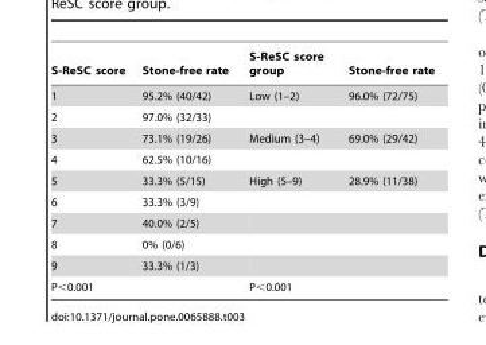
<table><thead><tr><td>S-ReSC score</td><td>Stone-free rate</td><td>S-ReSC score group</td><td>Stone-free rate</td></tr></thead><tbody><tr><td>1</td><td>95.2% (40/42)</td><td>Low (1–2)</td><td>96.0% (72/75)</td></tr><tr><td>2</td><td>97.0% (32/33)</td><td></td><td></td></tr><tr><td>3</td><td>73.1% (19/26)</td><td>Medium (3–4)</td><td>69.0% (29/42)</td></tr><tr><td>4</td><td>62.5% (10/16)</td><td></td><td></td></tr><tr><td>5</td><td>33.3% (5/15)</td><td>High (5–9)</td><td>28.9% (11/38)</td></tr><tr><td>6</td><td>33.3% (3/9)</td><td></td><td></td></tr><tr><td>7</td><td>40.0% (2/5)</td><td></td><td></td></tr><tr><td>8</td><td>0% (0/6)</td><td></td><td></td></tr><tr><td>9</td><td>33.3% (1/3)</td><td></td><td></td></tr><tr><td colspan="2">P&lt;0.001</td><td colspan="2">P&lt;0.001</td></tr></tbody></table>